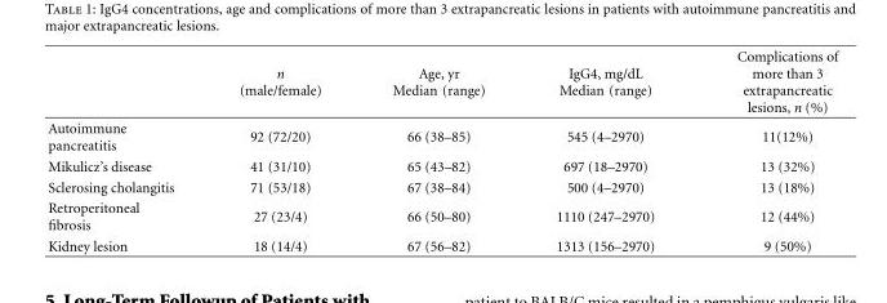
<table><thead><tr><td></td><td>n (male/female)</td><td>Age, yr Median (range)</td><td>IgG4, mg/dL Median (range)</td><td>Complications of more than 3 extrapancreatic lesions, n (%)</td></tr></thead><tbody><tr><td>Autoimmune pancreatitis</td><td>92 (72/20)</td><td>66 (38–85)</td><td>545 (4–2970)</td><td>11(12%)</td></tr><tr><td>Mikulicz’s disease</td><td>41 (31/10)</td><td>65 (43–82)</td><td>697 (18–2970)</td><td>13 (32%)</td></tr><tr><td>Sclerosing cholangitis</td><td>71 (53/18)</td><td>67 (38–84)</td><td>500 (4–2970)</td><td>13 (18%)</td></tr><tr><td>Retroperitoneal fibrosis</td><td>27 (23/4)</td><td>66 (50–80)</td><td>1110 (247–2970)</td><td>12 (44%)</td></tr><tr><td>Kidney lesion</td><td>18 (14/4)</td><td>67 (56–82)</td><td>1313 (156–2970)</td><td>9 (50%)</td></tr></tbody></table>